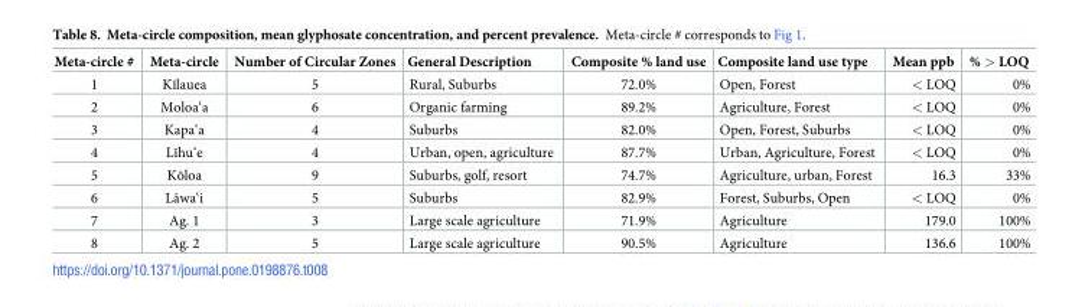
<table><thead><tr><td>Meta-circle #</td><td>Meta-circle</td><td>Number of Circular Zones</td><td>General Description</td><td>Composite % land use</td><td>Composite land use type</td><td>Mean ppb</td><td>% &gt; LOQ</td></tr></thead><tbody><tr><td>1</td><td>Kīlauea</td><td>5</td><td>Rural, Suburbs</td><td>72.0%</td><td>Open, Forest</td><td>&lt; LOQ</td><td>0%</td></tr><tr><td>2</td><td>Moloa‘a</td><td>6</td><td>Organic farming</td><td>89.2%</td><td>Agriculture, Forest</td><td>&lt; LOQ</td><td>0%</td></tr><tr><td>3</td><td>Kapa‘a</td><td>4</td><td>Suburbs</td><td>82.0%</td><td>Open, Forest, Suburbs</td><td>&lt; LOQ</td><td>0%</td></tr><tr><td>4</td><td>Līhu‘e</td><td>4</td><td>Urban, open, agriculture</td><td>87.7%</td><td>Urban, Agriculture, Forest</td><td>&lt; LOQ</td><td>0%</td></tr><tr><td>5</td><td>Kōloa</td><td>9</td><td>Suburbs, golf, resort</td><td>74.7%</td><td>Agriculture, urban, Forest</td><td>16.3</td><td>33%</td></tr><tr><td>6</td><td>Lāwa‘i</td><td>5</td><td>Suburbs</td><td>82.9%</td><td>Forest, Suburbs, Open</td><td>&lt; LOQ</td><td>0%</td></tr><tr><td>7</td><td>Ag. 1</td><td>3</td><td>Large scale agriculture</td><td>71.9%</td><td>Agriculture</td><td>179.0</td><td>100%</td></tr><tr><td>8</td><td>Ag. 2</td><td>5</td><td>Large scale agriculture</td><td>90.5%</td><td>Agriculture</td><td>136.6</td><td>100%</td></tr></tbody></table>